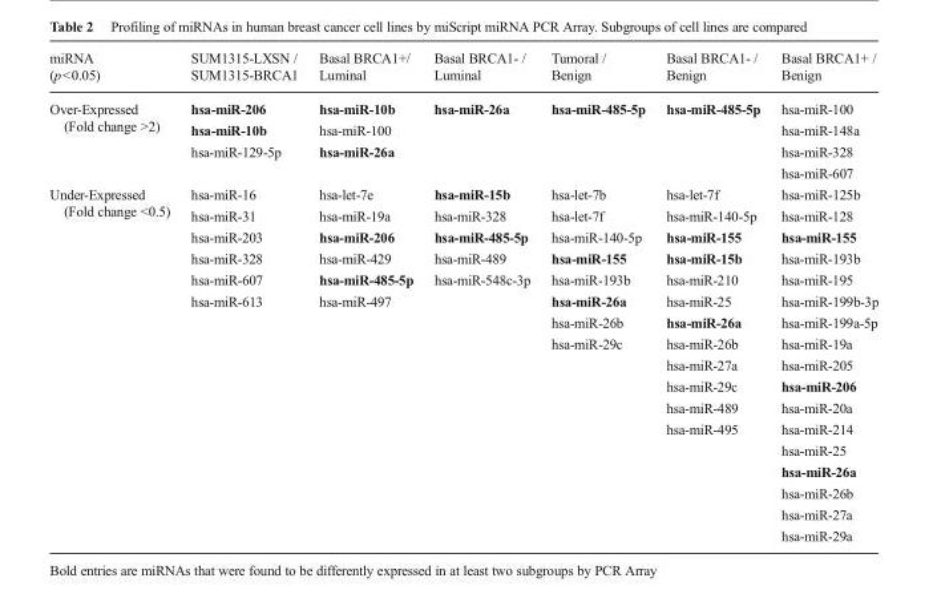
<table><thead><tr><td>miRNA (p&lt;0.05)</td><td>SUM1315-LXSN / SUM1315-BRCA1</td><td>Basal BRCA1+/ Luminal</td><td>Basal BRCA1- / Luminal</td><td>Tumoral / Benign</td><td>Basal BRCA1- / Benign</td><td>Basal BRCA1+ / Benign</td></tr></thead><tbody><tr><td rowspan="4">Over-Expressed (Fold change &gt;2)</td><td>hsa-miR-206</td><td>hsa-miR-10b</td><td>hsa-miR-26a</td><td>hsa-miR-485-5p</td><td>hsa-miR-485-5p</td><td>hsa-miR-100</td></tr><tr><td>hsa-miR-10b</td><td>hsa-miR-100</td><td></td><td></td><td></td><td>hsa-miR-148a</td></tr><tr><td>hsa-miR-129-5p</td><td>hsa-miR-26a</td><td></td><td></td><td></td><td>hsa-miR-328</td></tr><tr><td></td><td></td><td></td><td></td><td></td><td>hsa-miR-607</td></tr><tr><td rowspan="17">Under-Expressed (Fold change &lt;0.5)</td><td>hsa-miR-16</td><td>hsa-let-7e</td><td>hsa-miR-15b</td><td>hsa-let-7b</td><td>hsa-let-7f</td><td>hsa-miR-125b</td></tr><tr><td>hsa-miR-31</td><td>hsa-miR-19a</td><td>hsa-miR-328</td><td>hsa-let-7f</td><td>hsa-miR-140-5p</td><td>hsa-miR-128</td></tr><tr><td>hsa-miR-203</td><td>hsa-miR-206</td><td>hsa-miR-485-5p</td><td>hsa-miR-140-5p</td><td>hsa-miR-155</td><td>hsa-miR-155</td></tr><tr><td>hsa-miR-328</td><td>hsa-miR-429</td><td>hsa-miR-489</td><td>hsa-miR-155</td><td>hsa-miR-15b</td><td>hsa-miR-193b</td></tr><tr><td>hsa-miR-607</td><td>hsa-miR-485-5p</td><td>hsa-miR-548c-3p</td><td>hsa-miR-193b</td><td>hsa-miR-210</td><td>hsa-miR-195</td></tr><tr><td>hsa-miR-613</td><td>hsa-miR-497</td><td></td><td>hsa-miR-26a</td><td>hsa-miR-25</td><td>hsa-miR-199b-3p</td></tr><tr><td></td><td></td><td></td><td>hsa-miR-26b</td><td>hsa-miR-26a</td><td>hsa-miR-199a-5p</td></tr><tr><td></td><td></td><td></td><td>hsa-miR-29c</td><td>hsa-miR-26b</td><td>hsa-miR-19a</td></tr><tr><td></td><td></td><td></td><td></td><td>hsa-miR-27a</td><td>hsa-miR-205</td></tr><tr><td></td><td></td><td></td><td></td><td>hsa-miR-29c</td><td>hsa-miR-206</td></tr><tr><td></td><td></td><td></td><td></td><td>hsa-miR-489</td><td>hsa-miR-20a</td></tr><tr><td></td><td></td><td></td><td></td><td>hsa-miR-495</td><td>hsa-miR-214</td></tr><tr><td></td><td></td><td></td><td></td><td></td><td>hsa-miR-25</td></tr><tr><td></td><td></td><td></td><td></td><td></td><td>hsa-miR-26a</td></tr><tr><td></td><td></td><td></td><td></td><td></td><td>hsa-miR-26b</td></tr><tr><td></td><td></td><td></td><td></td><td></td><td>hsa-miR-27a</td></tr><tr><td></td><td></td><td></td><td></td><td></td><td>hsa-miR-29a</td></tr></tbody></table>